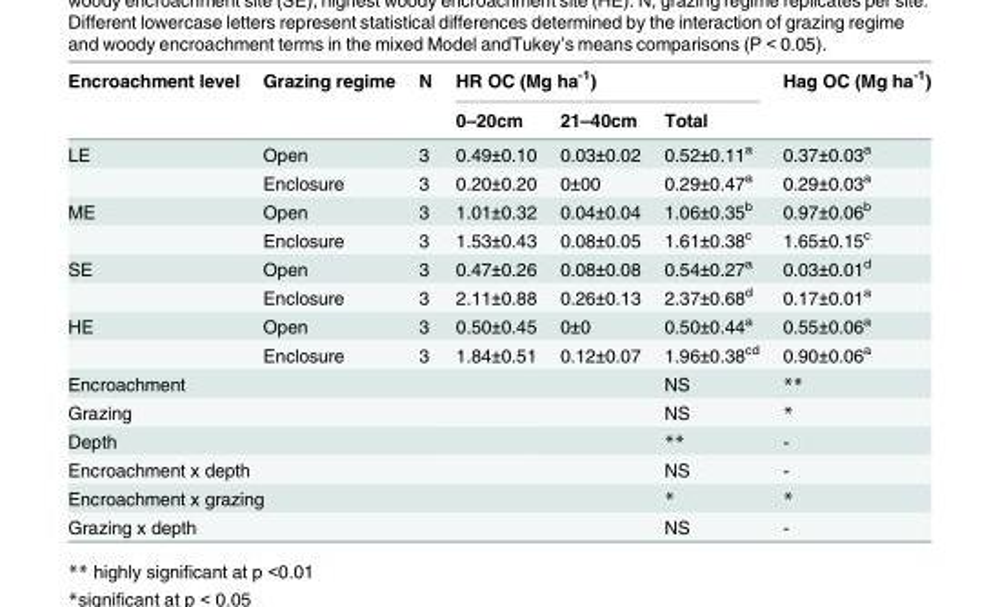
<table><thead><tr><td rowspan="2">Encroachment level</td><td rowspan="2">Grazing regime</td><td rowspan="2">N</td><td colspan="3">HR OC (Mg ha<sup>-1</sup>)</td><td rowspan="2">Hag OC (Mg ha<sup>-1</sup>)</td></tr><tr><td>0–20cm</td><td>21–40cm</td><td>Total</td></tr></thead><tbody><tr><td rowspan="2">LE</td><td>Open</td><td>3</td><td>0.49±0.10</td><td>0.03±0.02</td><td>0.52±0.11<sup>a</sup></td><td>0.37±0.03<sup>a</sup></td></tr><tr><td>Enclosure</td><td>3</td><td>0.20±0.20</td><td>0±00</td><td>0.29±0.47<sup>a</sup></td><td>0.29±0.03<sup>a</sup></td></tr><tr><td rowspan="2">ME</td><td>Open</td><td>3</td><td>1.01±0.32</td><td>0.04±0.04</td><td>1.06±0.35<sup>b</sup></td><td>0.97±0.06<sup>b</sup></td></tr><tr><td>Enclosure</td><td>3</td><td>1.53±0.43</td><td>0.08±0.05</td><td>1.61±0.38<sup>c</sup></td><td>1.65±0.15<sup>c</sup></td></tr><tr><td rowspan="2">SE</td><td>Open</td><td>3</td><td>0.47±0.26</td><td>0.08±0.08</td><td>0.54±0.27<sup>a</sup></td><td>0.03±0.01<sup>d</sup></td></tr><tr><td>Enclosure</td><td>3</td><td>2.11±0.88</td><td>0.26±0.13</td><td>2.37±0.68<sup>d</sup></td><td>0.17±0.01<sup>a</sup></td></tr><tr><td rowspan="2">HE</td><td>Open</td><td>3</td><td>0.50±0.45</td><td>0±0</td><td>0.50±0.44<sup>a</sup></td><td>0.55±0.06<sup>a</sup></td></tr><tr><td>Enclosure</td><td>3</td><td>1.84±0.51</td><td>0.12±0.07</td><td>1.96±0.38<sup>cd</sup></td><td>0.90±0.06<sup>a</sup></td></tr><tr><td colspan="2">Encroachment</td><td></td><td></td><td></td><td>NS</td><td>**</td></tr><tr><td colspan="2">Grazing</td><td></td><td></td><td></td><td>NS</td><td>*</td></tr><tr><td colspan="2">Depth</td><td></td><td></td><td></td><td>**</td><td>-</td></tr><tr><td colspan="2">Encroachment x depth</td><td></td><td></td><td></td><td>NS</td><td>-</td></tr><tr><td colspan="2">Encroachment x grazing</td><td></td><td></td><td></td><td>*</td><td>*</td></tr><tr><td colspan="2">Grazing x depth</td><td></td><td></td><td></td><td>NS</td><td>-</td></tr></tbody></table>